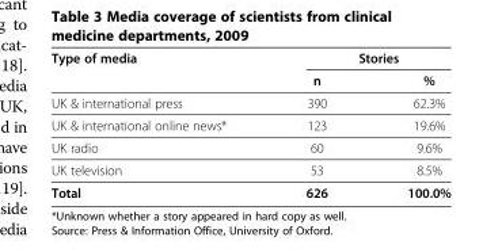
<table><thead><tr><td rowspan="2">Type of media</td><td colspan="2">Stories</td></tr><tr><td>n</td><td>%</td></tr></thead><tbody><tr><td>UK &amp; international press</td><td>390</td><td>62.3%</td></tr><tr><td>UK &amp; international online news*</td><td>123</td><td>19.6%</td></tr><tr><td>UK radio</td><td>60</td><td>9.6%</td></tr><tr><td>UK television</td><td>53</td><td>8.5%</td></tr><tr><td>Total</td><td>626</td><td>100.0%</td></tr></tbody></table>